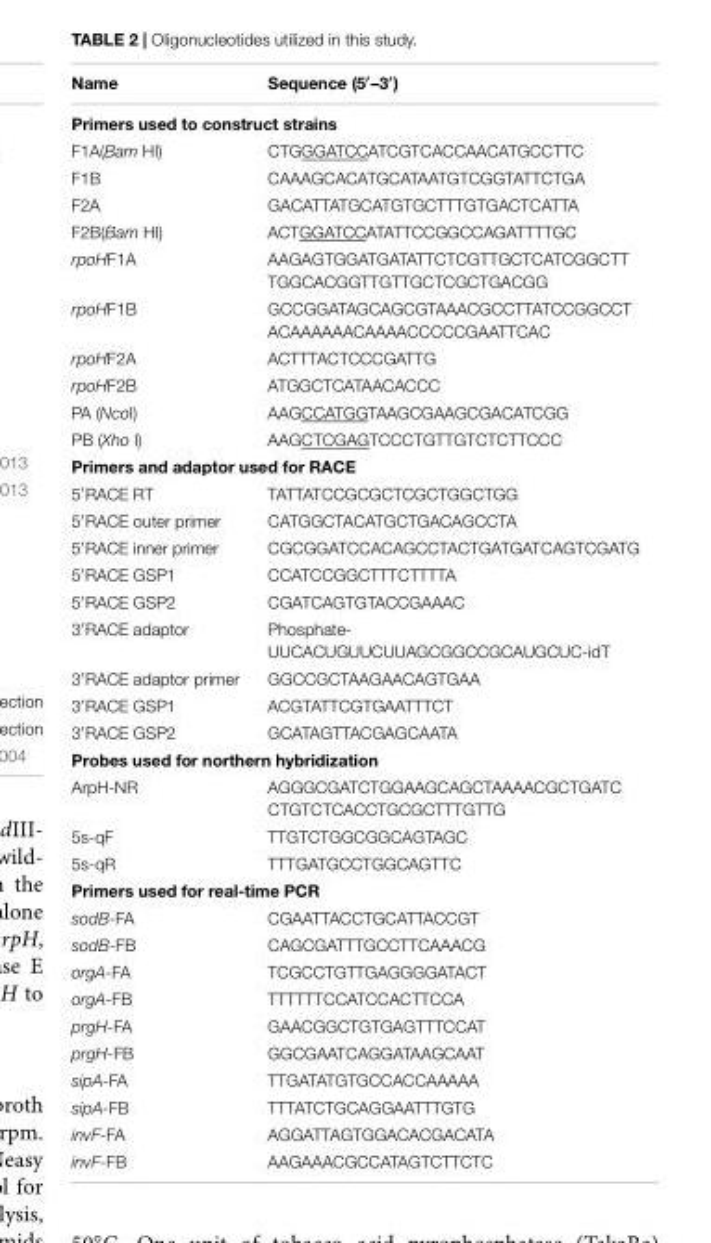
<table><thead><tr><td>Name</td><td>Sequence (5′–3′)</td></tr></thead><tbody><tr><td colspan="2">Primers used to construct strains</td></tr><tr><td>F1A(Bam HI)</td><td>CTGGGATCCATCGTCACCAACATGCCTTC</td></tr><tr><td>F1B</td><td>CAAAGCACATGCATAATGTCGGTATTCTGA</td></tr><tr><td>F2A</td><td>GACATTATGCATGTGCTTTGTGACTCATTA</td></tr><tr><td>F2B(Bam HI)</td><td>ACTGGATCCATATTCCGGCCAGATTTTGC</td></tr><tr><td>rpoHF1A</td><td>AAGAGTGGATGATATTCTCGTTGCTCATCGGCTT TGGCACGGTTGTTGCTCGCTGACGG</td></tr><tr><td>rpoHF1B</td><td>GCCGGATAGCAGCGTAAACGCCTTATCCGGCCT ACAAAAAACAAAACCCCCGAATTCAC</td></tr><tr><td>rpoHF2A</td><td>ACTTTACTCCCGATTG</td></tr><tr><td>rpoHF2B</td><td>ATGGCTCATAACACCC</td></tr><tr><td>PA (NcoI)</td><td>AAGCCATGGTAAGCGAAGCGACATCGG</td></tr><tr><td>PB (Xho I)</td><td>AAGCTCGAGTCCCTGTTGTCTCTTCCC</td></tr><tr><td colspan="2">Primers and adaptor used for RACE</td></tr><tr><td>5′RACE RT</td><td>TATTATCCGCGCTCGCTGGCTGG</td></tr><tr><td>5′RACE outer primer</td><td>CATGGCTACATGCTGACAGCCTA</td></tr><tr><td>5′RACE inner primer</td><td>CGCGGATCCACAGCCTACTGATGATCAGTCGATG</td></tr><tr><td>5′RACE GSP1</td><td>CCATCCGGCTTTCTTTTA</td></tr><tr><td>5′RACE GSP2</td><td>CGATCAGTGTACCGAAAC</td></tr><tr><td>3′RACE adaptor</td><td>Phosphate- UUCACUGUUCUUAGCGGCCGCAUGCUC-idT</td></tr><tr><td>3′RACE adaptor primer</td><td>GGCCGCTAAGAACAGTGAA</td></tr><tr><td>3′RACE GSP1</td><td>ACGTATTCGTGAATTTCT</td></tr><tr><td>3′RACE GSP2</td><td>GCATAGTTACGAGCAATA</td></tr><tr><td colspan="2">Probes used for northern hybridization</td></tr><tr><td>ArpH-NR</td><td>AGGGCGATCTGGAAGCAGCTAAAACGCTGATC CTGTCTCACCTGCGCTTTGTTG</td></tr><tr><td>5s-qF</td><td>TTGTCTGGCGGCAGTAGC</td></tr><tr><td>5s-qR</td><td>TTTGATGCCTGGCAGTTC</td></tr><tr><td colspan="2">Primers used for real-time PCR</td></tr><tr><td>sodB-FA</td><td>CGAATTACCTGCATTACCGT</td></tr><tr><td>sodB-FB</td><td>CAGCGATTTGCCTTCAAACG</td></tr><tr><td>orgA-FA</td><td>TCGCCTGTTGAGGGGATACT</td></tr><tr><td>orgA-FB</td><td>TTTTTTCCATCCACTTCCA</td></tr><tr><td>prgH-FA</td><td>GAACGGCTGTGAGTTTCCAT</td></tr><tr><td>prgH-FB</td><td>GGCGAATCAGGATAAGCAAT</td></tr><tr><td>sipA-FA</td><td>TTGATATGTGCCACCAAAAA</td></tr><tr><td>sipA-FB</td><td>TTTATCTGCAGGAATTTGTG</td></tr><tr><td>invF-FA</td><td>AGGATTAGTGGACACGACATA</td></tr><tr><td>invF-FB</td><td>AAGAAACGCCATAGTCTTCTC</td></tr></tbody></table>